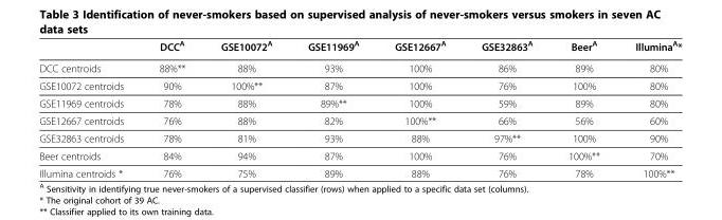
<table><thead><tr><td></td><td>DCC<sup>A</sup></td><td>GSE10072<sup>A</sup></td><td>GSE11969<sup>A</sup></td><td>GSE12667<sup>A</sup></td><td>GSE32863<sup>A</sup></td><td>Beer<sup>A</sup></td><td>Illumina<sup>A</sup>*</td></tr></thead><tbody><tr><td>DCC centroids</td><td>88%**</td><td>88%</td><td>93%</td><td>100%</td><td>86%</td><td>89%</td><td>80%</td></tr><tr><td>GSE10072 centroids</td><td>90%</td><td>100%**</td><td>87%</td><td>100%</td><td>76%</td><td>100%</td><td>80%</td></tr><tr><td>GSE11969 centroids</td><td>78%</td><td>88%</td><td>89%**</td><td>100%</td><td>59%</td><td>89%</td><td>80%</td></tr><tr><td>GSE12667 centroids</td><td>76%</td><td>88%</td><td>82%</td><td>100%**</td><td>66%</td><td>56%</td><td>60%</td></tr><tr><td>GSE32863 centroids</td><td>78%</td><td>81%</td><td>93%</td><td>88%</td><td>97%**</td><td>100%</td><td>90%</td></tr><tr><td>Beer centroids</td><td>84%</td><td>94%</td><td>87%</td><td>100%</td><td>76%</td><td>100%**</td><td>70%</td></tr><tr><td>Illumina centroids *</td><td>76%</td><td>75%</td><td>89%</td><td>88%</td><td>76%</td><td>78%</td><td>100%**</td></tr></tbody></table>